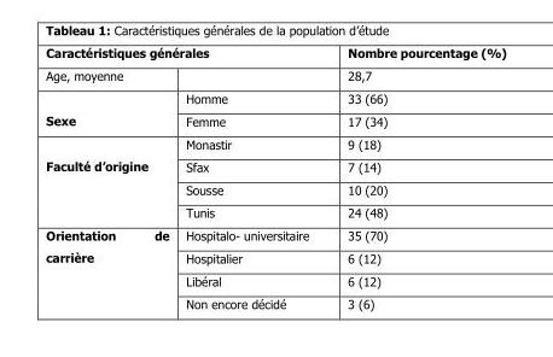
<table><thead><tr><td colspan="2">Caractéristiques générales</td><td rowspan="2">Nombre pourcentage (%) 28,7</td></tr><tr><td>Age, moyenne</td><td></td></tr></thead><tbody><tr><td rowspan="2">Sexe</td><td>Homme</td><td>33 (66)</td></tr><tr><td>Femme</td><td>17 (34)</td></tr><tr><td rowspan="4">Faculté d’origine</td><td>Monastir</td><td>9 (18)</td></tr><tr><td>Sfax</td><td>7 (14)</td></tr><tr><td>Sousse</td><td>10 (20)</td></tr><tr><td>Tunis</td><td>24 (48)</td></tr><tr><td rowspan="4">Orientation de carrière</td><td>Hospitalo- universitaire</td><td>35 (70)</td></tr><tr><td>Hospitalier</td><td>6 (12)</td></tr><tr><td>Libéral</td><td>6 (12)</td></tr><tr><td>Non encore décidé</td><td>3 (6)</td></tr></tbody></table>